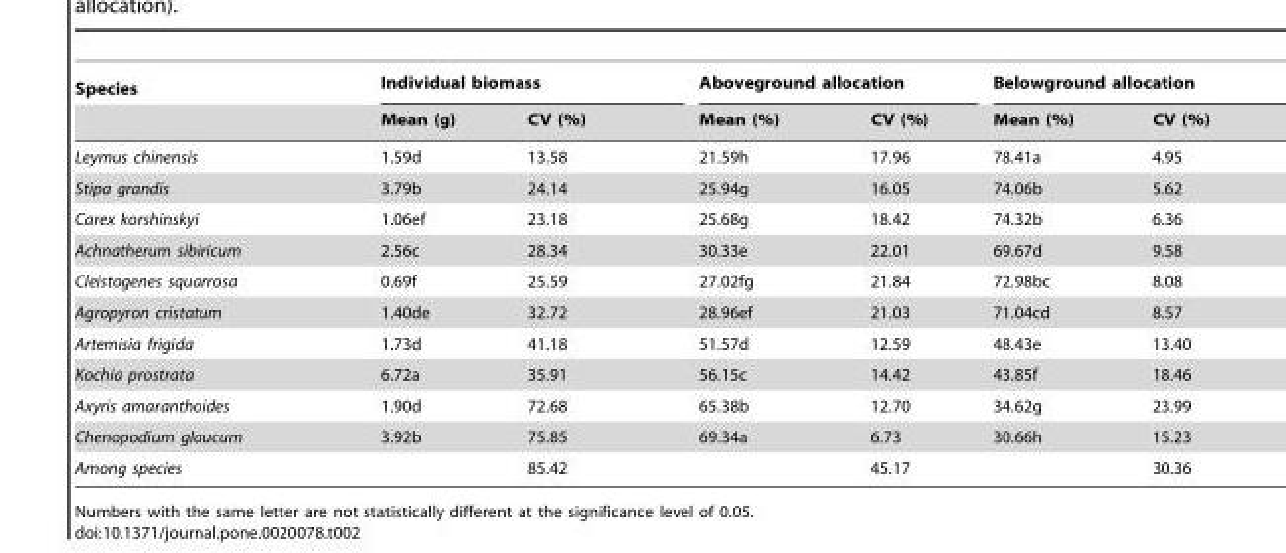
<table><thead><tr><td rowspan="2">Species</td><td colspan="2">Individual biomass</td><td colspan="2">Aboveground allocation</td><td colspan="2">Belowground allocation</td></tr><tr><td>Mean (g)</td><td>CV (%)</td><td>Mean (%)</td><td>CV (%)</td><td>Mean (%)</td><td>CV (%)</td></tr></thead><tbody><tr><td>Leymus chinensis</td><td>1.59d</td><td>13.58</td><td>21.59h</td><td>17.96</td><td>78.41a</td><td>4.95</td></tr><tr><td>Stipa grandis</td><td>3.79b</td><td>24.14</td><td>25.94g</td><td>16.05</td><td>74.06b</td><td>5.62</td></tr><tr><td>Carex korshinskyi</td><td>1.06ef</td><td>23.18</td><td>25.68g</td><td>18.42</td><td>74.32b</td><td>6.36</td></tr><tr><td>Achnatherum sibiricum</td><td>2.56c</td><td>28.34</td><td>30.33e</td><td>22.01</td><td>69.67d</td><td>9.58</td></tr><tr><td>Cleistogenes squarrosa</td><td>0.69f</td><td>25.59</td><td>27.02fg</td><td>21.84</td><td>72.98bc</td><td>8.08</td></tr><tr><td>Agropyron cristatum</td><td>1.40de</td><td>32.72</td><td>28.96ef</td><td>21.03</td><td>71.04cd</td><td>8.57</td></tr><tr><td>Artemisia frigida</td><td>1.73d</td><td>41.18</td><td>51.57d</td><td>12.59</td><td>48.43e</td><td>13.40</td></tr><tr><td>Kochia prostrata</td><td>6.72a</td><td>35.91</td><td>56.15c</td><td>14.42</td><td>43.85f</td><td>18.46</td></tr><tr><td>Axyris amaranthoides</td><td>1.90d</td><td>72.68</td><td>65.38b</td><td>12.70</td><td>34.62g</td><td>23.99</td></tr><tr><td>Chenopodium glaucum</td><td>3.92b</td><td>75.85</td><td>69.34a</td><td>6.73</td><td>30.66h</td><td>15.23</td></tr><tr><td>Among species</td><td></td><td>85.42</td><td></td><td>45.17</td><td></td><td>30.36</td></tr></tbody></table>